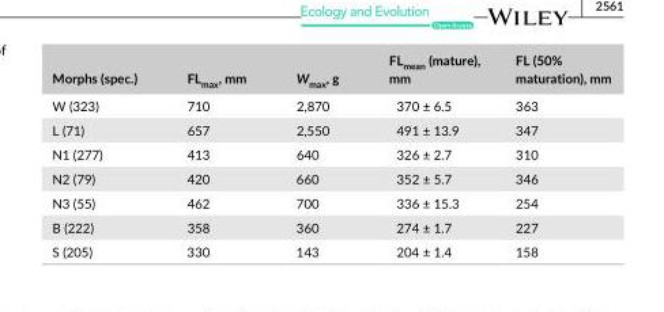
<table><thead><tr><td>Morphs (spec.)</td><td>FL<sub>max</sub>, mm</td><td>W<sub>max</sub>, g</td><td>FL<sub>mean</sub> (mature), mm</td><td>FL (50% maturation), mm</td></tr></thead><tbody><tr><td>W (323)</td><td>710</td><td>2,870</td><td>370 ± 6.5</td><td>363</td></tr><tr><td>L (71)</td><td>657</td><td>2,550</td><td>491 ± 13.9</td><td>347</td></tr><tr><td>N1 (277)</td><td>413</td><td>640</td><td>326 ± 2.7</td><td>310</td></tr><tr><td>N2 (79)</td><td>420</td><td>660</td><td>352 ± 5.7</td><td>346</td></tr><tr><td>N3 (55)</td><td>462</td><td>700</td><td>336 ± 15.3</td><td>254</td></tr><tr><td>B (222)</td><td>358</td><td>360</td><td>274 ± 1.7</td><td>227</td></tr><tr><td>S (205)</td><td>330</td><td>143</td><td>204 ± 1.4</td><td>158</td></tr></tbody></table>